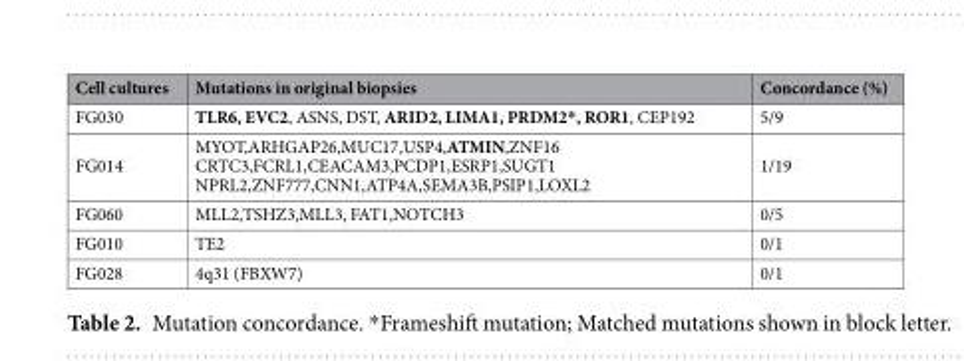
<table><thead><tr><td>Cell cultures</td><td>Mutations in original biopsies</td><td>Concordance (%)</td></tr></thead><tbody><tr><td>FG030</td><td>TLR6, EVC2, ASNS, DST, ARID2, LIMA1, PRDM2*, ROR1, CEP192</td><td>5/9</td></tr><tr><td>FG014</td><td>MYOT,ARHGAP26,MUC17,USP4,ATMIN,ZNF16 CRTC3,FCRL1,CEACAM3,PCDP1,ESRP1,SUGT1 NPRL2,ZNF777,CNN1,ATP4A,SEMA3B,PSIP1,LOXL2</td><td>1/19</td></tr><tr><td>FG060</td><td>MLL2,TSHZ3,MLL3, FAT1,NOTCH3</td><td>0/5</td></tr><tr><td>FG010</td><td>TE2</td><td>0/1</td></tr><tr><td>FG028</td><td>4q31 (FBXW7)</td><td>0/1</td></tr></tbody></table>